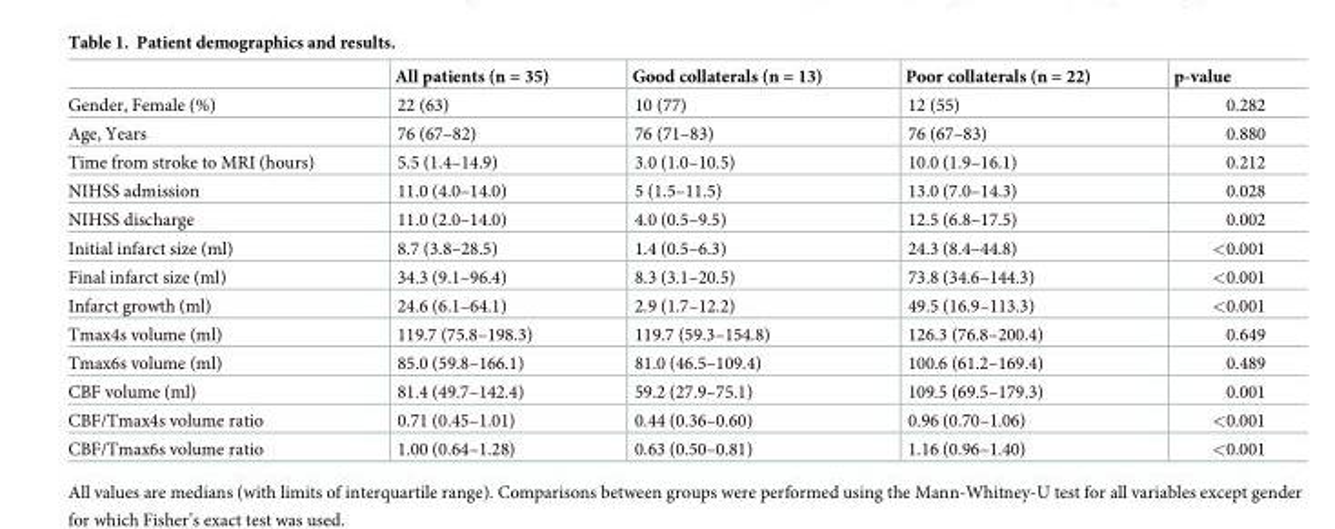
<table><thead><tr><td></td><td>All patients (n = 35)</td><td>Good collaterals (n = 13)</td><td>Poor collaterals (n = 22)</td><td>p-value</td></tr></thead><tbody><tr><td>Gender, Female (%)</td><td>22 (63)</td><td>10 (77)</td><td>12 (55)</td><td>0.282</td></tr><tr><td>Age, Years</td><td>76 (67–82)</td><td>76 (71–83)</td><td>76 (67–83)</td><td>0.880</td></tr><tr><td>Time from stroke to MRI (hours)</td><td>5.5 (1.4–14.9)</td><td>3.0 (1.0–10.5)</td><td>10.0 (1.9–16.1)</td><td>0.212</td></tr><tr><td>NIHSS admission</td><td>11.0 (4.0–14.0)</td><td>5 (1.5–11.5)</td><td>13.0 (7.0–14.3)</td><td>0.028</td></tr><tr><td>NIHSS discharge</td><td>11.0 (2.0–14.0)</td><td>4.0 (0.5–9.5)</td><td>12.5 (6.8–17.5)</td><td>0.002</td></tr><tr><td>Initial infarct size (ml)</td><td>8.7 (3.8–28.5)</td><td>1.4 (0.5–6.3)</td><td>24.3 (8.4–44.8)</td><td>&lt;0.001</td></tr><tr><td>Final infarct size (ml)</td><td>34.3 (9.1–96.4)</td><td>8.3 (3.1–20.5)</td><td>73.8 (34.6–144.3)</td><td>&lt;0.001</td></tr><tr><td>Infarct growth (ml)</td><td>24.6 (6.1–64.1)</td><td>2.9 (1.7–12.2)</td><td>49.5 (16.9–113.3)</td><td>&lt;0.001</td></tr><tr><td>Tmax4s volume (ml)</td><td>119.7 (75.8–198.3)</td><td>119.7 (59.3–154.8)</td><td>126.3 (76.8–200.4)</td><td>0.649</td></tr><tr><td>Tmax6s volume (ml)</td><td>85.0 (59.8–166.1)</td><td>81.0 (46.5–109.4)</td><td>100.6 (61.2–169.4)</td><td>0.489</td></tr><tr><td>CBF volume (ml)</td><td>81.4 (49.7–142.4)</td><td>59.2 (27.9–75.1)</td><td>109.5 (69.5–179.3)</td><td>0.001</td></tr><tr><td>CBF/Tmax4s volume ratio</td><td>0.71 (0.45–1.01)</td><td>0.44 (0.36–0.60)</td><td>0.96 (0.70–1.06)</td><td>&lt;0.001</td></tr><tr><td>CBF/Tmax6s volume ratio</td><td>1.00 (0.64–1.28)</td><td>0.63 (0.50–0.81)</td><td>1.16 (0.96–1.40)</td><td>&lt;0.001</td></tr></tbody></table>